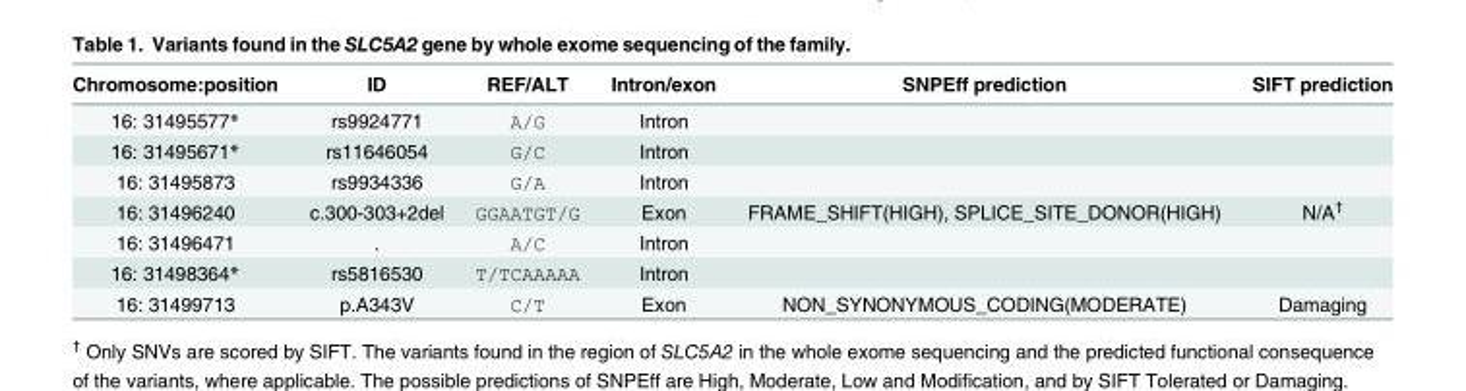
<table><thead><tr><td>Chromosome:position</td><td>ID</td><td>REF/ALT</td><td>Intron/exon</td><td>SNPEff prediction</td><td>SIFT prediction</td></tr></thead><tbody><tr><td>16: 31495577*</td><td>rs9924771</td><td>A/G</td><td>Intron</td><td></td><td></td></tr><tr><td>16: 31495671*</td><td>rs11646054</td><td>G/C</td><td>Intron</td><td></td><td></td></tr><tr><td>16: 31495873</td><td>rs9934336</td><td>G/A</td><td>Intron</td><td></td><td></td></tr><tr><td>16: 31496240</td><td>c.300-303+2del</td><td>GGAATGT/G</td><td>Exon</td><td>FRAME_SHIFT(HIGH), SPLICE_SITE_DONOR(HIGH)</td><td>N/A<sup>†</sup></td></tr><tr><td>16: 31496471</td><td>.</td><td>A/C</td><td>Intron</td><td></td><td></td></tr><tr><td>16: 31498364*</td><td>rs5816530</td><td>T/TCAAAAA</td><td>Intron</td><td></td><td></td></tr><tr><td>16: 31499713</td><td>p.A343V</td><td>C/T</td><td>Exon</td><td>NON_SYNONYMOUS_CODING(MODERATE)</td><td>Damaging</td></tr></tbody></table>